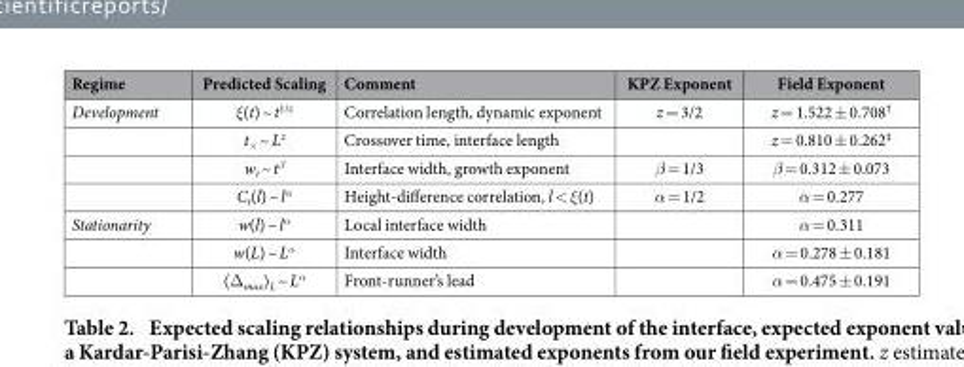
<table><thead><tr><td>Regime</td><td>Predicted Scaling</td><td>Comment</td><td>KPZ Exponent</td><td>Field Exponent</td></tr></thead><tbody><tr><td rowspan="4">Development</td><td>ξ(t) ~ t<sup>1/z</sup></td><td>Correlation length, dynamic exponent</td><td>z = 3/2</td><td>z = 1.522 ± 0.708<sup>†</sup></td></tr><tr><td>t<sub>×</sub> ~ L<sup>z</sup></td><td>Crossover time, interface length</td><td></td><td>z = 0.810 ± 0.262<sup>‡</sup></td></tr><tr><td>w<sub>t</sub> ~ t<sup>β</sup></td><td>Interface width, growth exponent</td><td>β = 1/3</td><td>β = 0.312 ± 0.073</td></tr><tr><td>C<sub>t</sub>(l) ~ l<sup>α</sup></td><td>Height-difference correlation, l &lt; ξ(t)</td><td>α = 1/2</td><td>α = 0.277</td></tr><tr><td rowspan="3">Stationarity</td><td>w(l) ~ l<sup>α</sup></td><td>Local interface width</td><td></td><td>α = 0.311</td></tr><tr><td>w(L) ~ L<sup>α</sup></td><td>Interface width</td><td></td><td>α = 0.278 ± 0.181</td></tr><tr><td>〈 Δ <sub>max</sub>〉 <sub>L</sub> ~ L<sup>α</sup></td><td>Front-runner’s lead</td><td></td><td>α = 0.475 ± 0.191</td></tr></tbody></table>